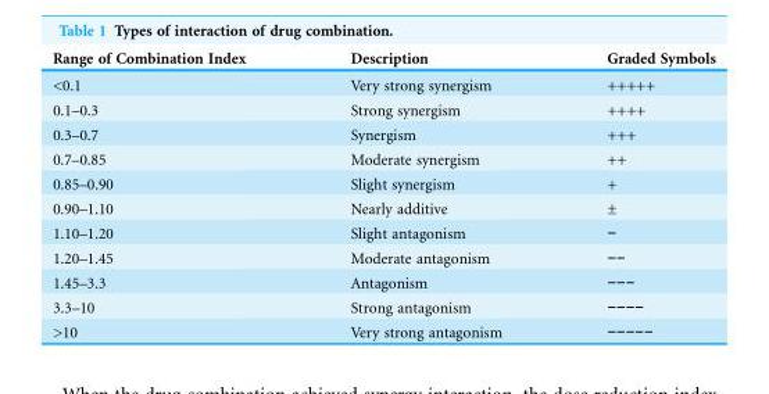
<table><thead><tr><td>Range of Combination Index</td><td>Description</td><td>Graded Symbols</td></tr></thead><tbody><tr><td>&lt;0.1</td><td>Very strong synergism</td><td>+++++</td></tr><tr><td>0.1–0.3</td><td>Strong synergism</td><td>++++</td></tr><tr><td>0.3–0.7</td><td>Synergism</td><td>+++</td></tr><tr><td>0.7–0.85</td><td>Moderate synergism</td><td>++</td></tr><tr><td>0.85–0.90</td><td>Slight synergism</td><td>+</td></tr><tr><td>0.90–1.10</td><td>Nearly additive</td><td>±</td></tr><tr><td>1.10–1.20</td><td>Slight antagonism</td><td>−</td></tr><tr><td>1.20–1.45</td><td>Moderate antagonism</td><td>−−</td></tr><tr><td>1.45–3.3</td><td>Antagonism</td><td>−−−</td></tr><tr><td>3.3–10</td><td>Strong antagonism</td><td>−−−−</td></tr><tr><td>&gt;10</td><td>Very strong antagonism</td><td>−−−−−</td></tr></tbody></table>